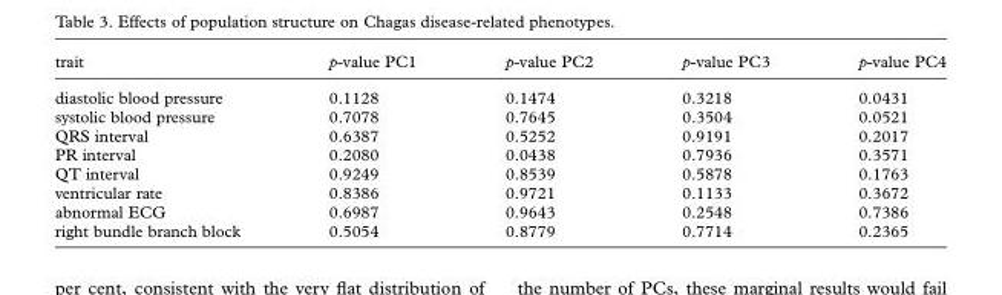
<table><thead><tr><td>trait</td><td>p-value PC1</td><td>p-value PC2</td><td>p-value PC3</td><td>p-value PC4</td></tr></thead><tbody><tr><td>diastolic blood pressure</td><td>0.1128</td><td>0.1474</td><td>0.3218</td><td>0.0431</td></tr><tr><td>systolic blood pressure</td><td>0.7078</td><td>0.7645</td><td>0.3504</td><td>0.0521</td></tr><tr><td>QRS interval</td><td>0.6387</td><td>0.5252</td><td>0.9191</td><td>0.2017</td></tr><tr><td>PR interval</td><td>0.2080</td><td>0.0438</td><td>0.7936</td><td>0.3571</td></tr><tr><td>QT interval</td><td>0.9249</td><td>0.8539</td><td>0.5878</td><td>0.1763</td></tr><tr><td>ventricular rate</td><td>0.8386</td><td>0.9721</td><td>0.1133</td><td>0.3672</td></tr><tr><td>abnormal ECG</td><td>0.6987</td><td>0.9643</td><td>0.2548</td><td>0.7386</td></tr><tr><td>right bundle branch block</td><td>0.5054</td><td>0.8779</td><td>0.7714</td><td>0.2365</td></tr></tbody></table>